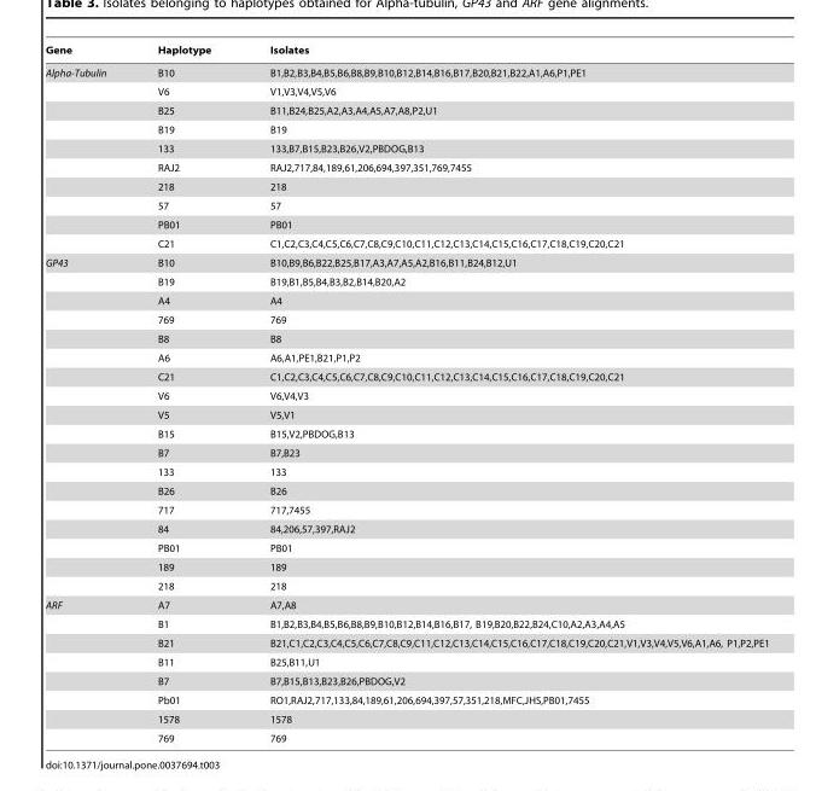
<table><thead><tr><td>Gene</td><td>Haplotype</td><td>Isolates</td></tr></thead><tbody><tr><td rowspan="10">Alpha-Tubulin</td><td>B10</td><td>B1,B2,B3,B4,B5,B6,B8,B9,B10,B12,B14,B16,B17,B20,B21,B22,A1,A6,P1,PE1</td></tr><tr><td>V6</td><td>V1,V3,V4,V5,V6</td></tr><tr><td>B25</td><td>B11,B24,B25,A2,A3,A4,A5,A7,A8,P2,U1</td></tr><tr><td>B19</td><td>B19</td></tr><tr><td>133</td><td>133,B7,B15,B23,B26,V2,PBDOG,B13</td></tr><tr><td>RAJ2</td><td>RAJ2,717,84,189,61,206,694,397,351,769,7455</td></tr><tr><td>218</td><td>218</td></tr><tr><td>57</td><td>57</td></tr><tr><td>PB01</td><td>PB01</td></tr><tr><td>C21</td><td>C1,C2,C3,C4,C5,C6,C7,C8,C9,C10,C11,C12,C13,C14,C15,C16,C17,C18,C19,C20,C21</td></tr><tr><td rowspan="18">GP43</td><td>B10</td><td>B10,B9,B6,B22,B25,B17,A3,A7,A5,A2,B16,B11,B24,B12,U1</td></tr><tr><td>B19</td><td>B19,B1,B5,B4,B3,B2,B14,B20,A2</td></tr><tr><td>A4</td><td>A4</td></tr><tr><td>769</td><td>769</td></tr><tr><td>B8</td><td>B8</td></tr><tr><td>A6</td><td>A6,A1,PE1,B21,P1,P2</td></tr><tr><td>C21</td><td>C1,C2,C3,C4,C5,C6,C7,C8,C9,C10,C11,C12,C13,C14,C15,C16,C17,C18,C19,C20,C21</td></tr><tr><td>V6</td><td>V6,V4,V3</td></tr><tr><td>V5</td><td>V5,V1</td></tr><tr><td>B15</td><td>B15,V2,PBDOG,B13</td></tr><tr><td>B7</td><td>B7,B23</td></tr><tr><td>133</td><td>133</td></tr><tr><td>B26</td><td>B26</td></tr><tr><td>717</td><td>717,7455</td></tr><tr><td>84</td><td>84,206,57,397,RAJ2</td></tr><tr><td>PB01</td><td>PB01</td></tr><tr><td>189</td><td>189</td></tr><tr><td>218</td><td>218</td></tr><tr><td rowspan="8">ARF</td><td>A7</td><td>A7,A8</td></tr><tr><td>B1</td><td>B1,B2,B3,B4,B5,B6,B8,B9,B10,B12,B14,B16,B17, B19,B20,B22,B24,C10,A2,A3,A4,A5</td></tr><tr><td>B21</td><td>B21,C1,C2,C3,C4,C5,C6,C7,C8,C9,C11,C12,C13,C14,C15,C16,C17,C18,C19,C20,C21,V1,V3,V4,V5,V6,A1,A6, P1,P2,PE1</td></tr><tr><td>B11</td><td>B25,B11,U1</td></tr><tr><td>B7</td><td>B7,B15,B13,B23,B26,PBDOG,V2</td></tr><tr><td>Pb01</td><td>RO1,RAJ2,717,133,84,189,61,206,694,397,57,351,218,MFC,JHS,PB01,7455</td></tr><tr><td>1578</td><td>1578</td></tr><tr><td>769</td><td>769</td></tr></tbody></table>